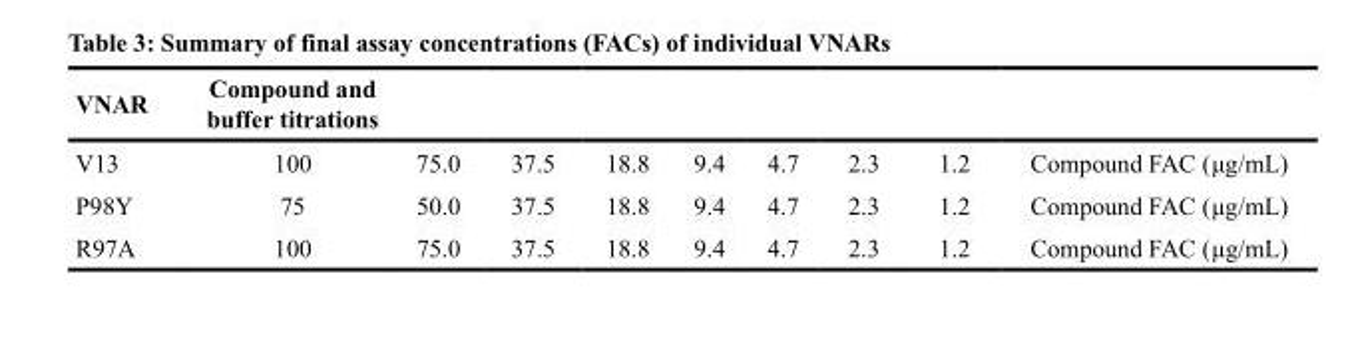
<table><thead><tr><td>VNAR</td><td>Compound and buffer titrations</td><td></td><td></td><td></td><td></td><td></td><td></td><td></td><td></td></tr></thead><tbody><tr><td>V13</td><td>100</td><td>75.0</td><td>37.5</td><td>18.8</td><td>9.4</td><td>4.7</td><td>2.3</td><td>1.2</td><td>Compound FAC (μg/mL)</td></tr><tr><td>P98Y</td><td>75</td><td>50.0</td><td>37.5</td><td>18.8</td><td>9.4</td><td>4.7</td><td>2.3</td><td>1.2</td><td>Compound FAC (μg/mL)</td></tr><tr><td>R97A</td><td>100</td><td>75.0</td><td>37.5</td><td>18.8</td><td>9.4</td><td>4.7</td><td>2.3</td><td>1.2</td><td>Compound FAC (μg/mL)</td></tr></tbody></table>